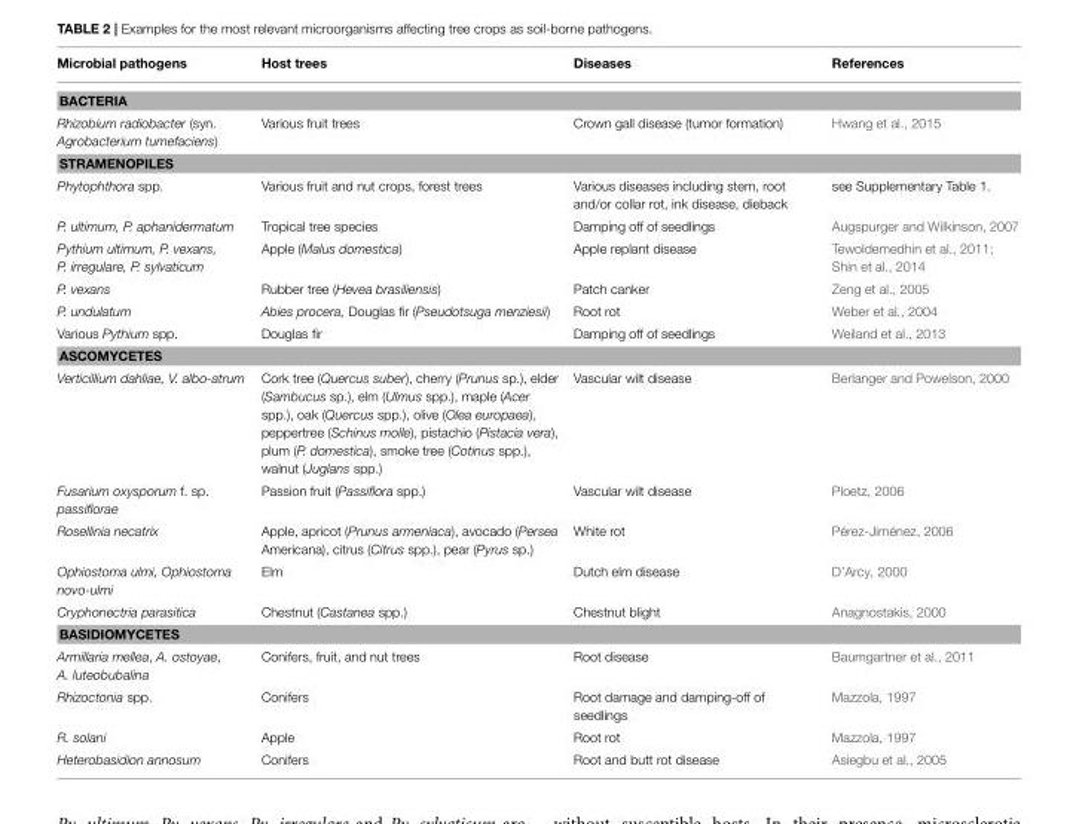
<table><thead><tr><td>Microbial pathogens</td><td>Host trees</td><td>Diseases</td><td>References</td></tr></thead><tbody><tr><td colspan="4">BACTERIA</td></tr><tr><td>Rhizobium radiobacter (syn. Agrobacterium tumefaciens)</td><td>Various fruit trees</td><td>Crown gall disease (tumor formation)</td><td>Hwang et al., 2015</td></tr><tr><td colspan="4">STRAMENOPILES</td></tr><tr><td>Phytophthora spp.</td><td>Various fruit and nut crops, forest trees</td><td>Various diseases including stem, root and/or collar rot, ink disease, dieback</td><td>see Supplementary Table 1.</td></tr><tr><td>P. ultimum, P. aphanidermatum</td><td>Tropical tree species</td><td>Damping off of seedlings</td><td>Augspurger and Wilkinson, 2007</td></tr><tr><td>Pythium ultimum, P. vexans, P. irregulare, P. sylvaticum</td><td>Apple (Malus domestica)</td><td>Apple replant disease</td><td>Tewoldemedhin et al., 2011; Shin et al., 2014</td></tr><tr><td>P. vexans</td><td>Rubber tree (Hevea brasiliensis)</td><td>Patch canker</td><td>Zeng et al., 2005</td></tr><tr><td>P. undulatum</td><td>Abies procera, Douglas fir (Pseudotsuga menziesii)</td><td>Root rot</td><td>Weber et al., 2004</td></tr><tr><td>Various Pythium spp.</td><td>Douglas fir</td><td>Damping off of seedlings</td><td>Weiland et al., 2013</td></tr><tr><td colspan="4">ASCOMYCETES</td></tr><tr><td>Verticillium dahliae, V. albo-atrum</td><td>Cork tree (Quercus suber), cherry (Prunus sp.), elder (Sambucus sp.), elm (Ulmus spp.), maple (Acer spp.), oak (Quercus spp.), olive (Olea europaea), peppertree (Schinus molle), pistachio (Pistacia vera), plum (P. domestica), smoke tree (Cotinus spp.), walnut (Juglans spp.)</td><td>Vascular wilt disease</td><td>Berlanger and Powelson, 2000</td></tr><tr><td>Fusarium oxysporum f. sp. passiflorae</td><td>Passion fruit (Passiflora spp.)</td><td>Vascular wilt disease</td><td>Ploetz, 2006</td></tr><tr><td>Rosellinia necatrix</td><td>Apple, apricot (Prunus armeniaca), avocado (Persea Americana), citrus (Citrus spp.), pear (Pyrus sp.)</td><td>White rot</td><td>Pérez-Jiménez, 2006</td></tr><tr><td>Ophiostoma ulmi, Ophiostoma novo-ulmi</td><td>Elm</td><td>Dutch elm disease</td><td>D’Arcy, 2000</td></tr><tr><td>Cryphonectria parasitica</td><td>Chestnut (Castanea spp.)</td><td>Chestnut blight</td><td>Anagnostakis, 2000</td></tr><tr><td colspan="4">BASIDIOMYCETES</td></tr><tr><td>Armillaria mellea, A. ostoyae, A. luteobubalina</td><td>Conifers, fruit, and nut trees</td><td>Root disease</td><td>Baumgartner et al., 2011</td></tr><tr><td>Rhizoctonia spp.</td><td>Conifers</td><td>Root damage and damping-off of seedlings</td><td>Mazzola, 1997</td></tr><tr><td>R. solani</td><td>Apple</td><td>Root rot</td><td>Mazzola, 1997</td></tr><tr><td>Heterobasidion annosum</td><td>Conifers</td><td>Root and butt rot disease</td><td>Asiegbu et al., 2005</td></tr></tbody></table>